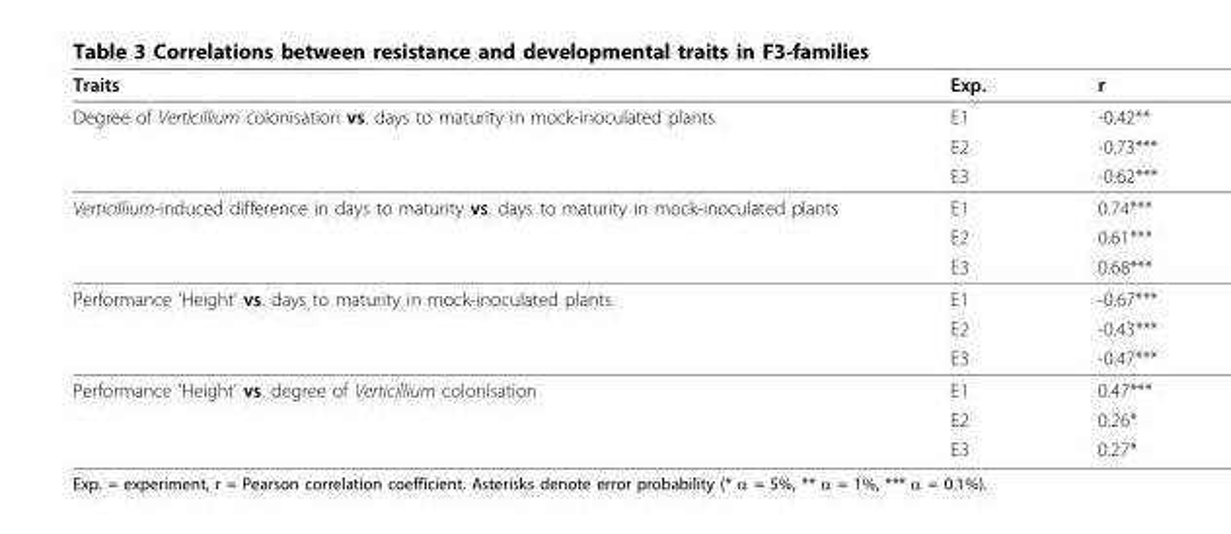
<table><thead><tr><td>Traits</td><td>Exp.</td><td>r</td></tr></thead><tbody><tr><td rowspan="3">Degree of Verticillium colonisation vs. days to maturity in mock-inoculated plants</td><td>E1</td><td>-0.42**</td></tr><tr><td>E2</td><td>-0.73***</td></tr><tr><td>E3</td><td>-0.62***</td></tr><tr><td rowspan="3">Verticillium-induced difference in days to maturity vs. days to maturity in mock-inoculated plants</td><td>E1</td><td>0.74***</td></tr><tr><td>E2</td><td>0.61***</td></tr><tr><td>E3</td><td>0.68***</td></tr><tr><td rowspan="3">Performance ‘Height’ vs. days to maturity in mock-inoculated plants</td><td>E1</td><td>-0.67***</td></tr><tr><td>E2</td><td>-0.43***</td></tr><tr><td>E3</td><td>-0.47***</td></tr><tr><td rowspan="3">Performance ‘Height’ vs. degree of Verticillium colonisation</td><td>E1</td><td>0.47***</td></tr><tr><td>E2</td><td>0.26*</td></tr><tr><td>E3</td><td>0.27*</td></tr></tbody></table>